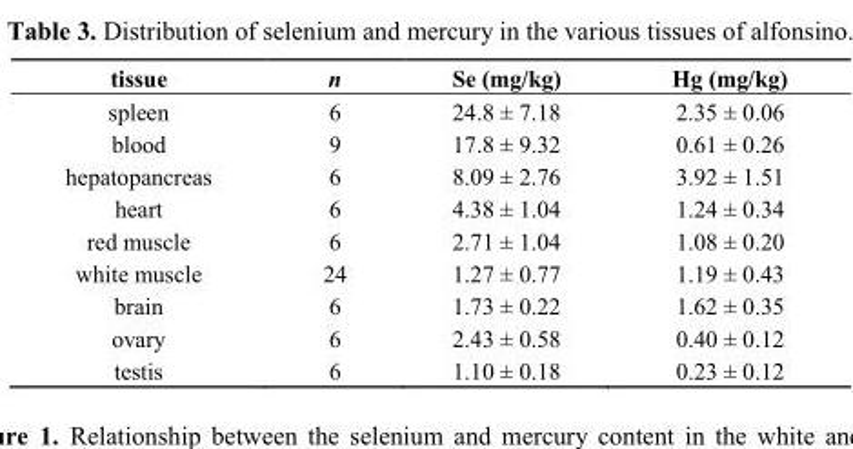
<table><thead><tr><td>tissue</td><td>n</td><td>Se (mg/kg)</td><td>Hg (mg/kg)</td></tr></thead><tbody><tr><td>spleen</td><td>6</td><td>24.8 ± 7.18</td><td>2.35 ± 0.06</td></tr><tr><td>blood</td><td>9</td><td>17.8 ± 9.32</td><td>0.61 ± 0.26</td></tr><tr><td>hepatopancreas</td><td>6</td><td>8.09 ± 2.76</td><td>3.92 ± 1.51</td></tr><tr><td>heart</td><td>6</td><td>4.38 ± 1.04</td><td>1.24 ± 0.34</td></tr><tr><td>red muscle</td><td>6</td><td>2.71 ± 1.04</td><td>1.08 ± 0.20</td></tr><tr><td>white muscle</td><td>24</td><td>1.27 ± 0.77</td><td>1.19 ± 0.43</td></tr><tr><td>brain</td><td>6</td><td>1.73 ± 0.22</td><td>1.62 ± 0.35</td></tr><tr><td>ovary</td><td>6</td><td>2.43 ± 0.58</td><td>0.40 ± 0.12</td></tr><tr><td>testis</td><td>6</td><td>1.10 ± 0.18</td><td>0.23 ± 0.12</td></tr></tbody></table>